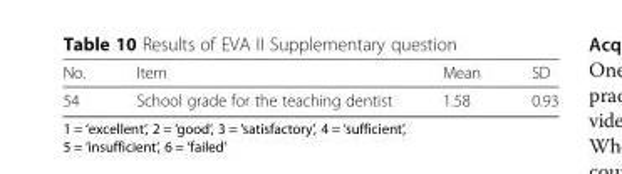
<table><thead><tr><td>No.</td><td>Item</td><td>Mean</td><td>SD</td></tr></thead><tbody><tr><td>54</td><td>School grade for the teaching dentist</td><td>1.58</td><td>0.93</td></tr></tbody></table>